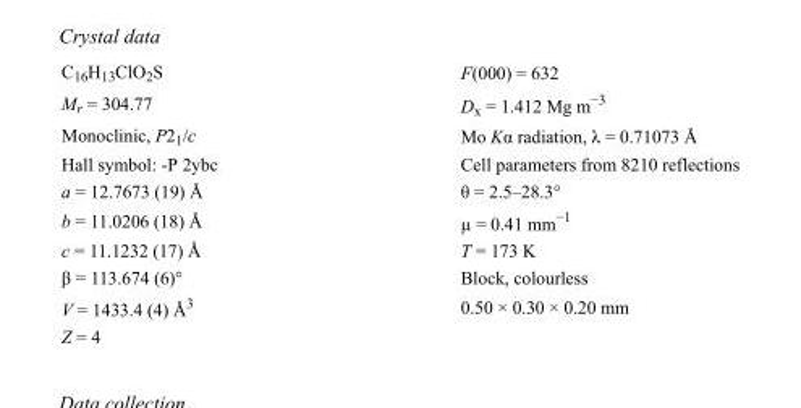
<table><tbody><tr><td>C<sub>16</sub>H<sub>13</sub>ClO<sub>2</sub>S</td><td>F(000) = 632</td></tr><tr><td>M<sub>r</sub> = 304.77</td><td>D<sub>x</sub> = 1.412 Mg m<sup>−3</sup></td></tr><tr><td>Monoclinic, P2<sub>1</sub>/c</td><td>Mo Kα radiation, λ = 0.71073 Å</td></tr><tr><td>Hall symbol: -P 2ybc</td><td>Cell parameters from 8210 reflections</td></tr><tr><td>a = 12.7673 (19) Å</td><td>θ = 2.5–28.3°</td></tr><tr><td>b = 11.0206 (18) Å</td><td>µ = 0.41 mm<sup>−1</sup></td></tr><tr><td>c = 11.1232 (17) Å</td><td>T = 173 K</td></tr><tr><td>β = 113.674 (6)°</td><td>Block, colourless</td></tr><tr><td>V = 1433.4 (4) Å<sup>3</sup></td><td>0.50 × 0.30 × 0.20 mm</td></tr><tr><td>Z = 4</td><td></td></tr></tbody></table>